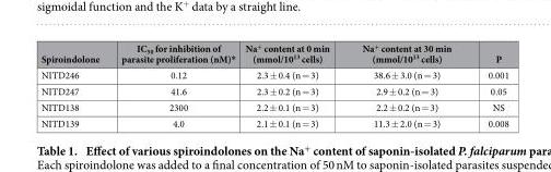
<table><thead><tr><td>Spiroindolone</td><td>IC<sub>50</sub> for inhibition of parasite proliferation (nM)*</td><td>Na<sup>+</sup> content at 0 min (mmol/10<sup>13</sup> cells)</td><td>Na<sup>+</sup> content at 30 min (mmol/10<sup>13</sup> cells)</td><td>P</td></tr></thead><tbody><tr><td>NITD246</td><td>0.12</td><td>2.3 ± 0.4 (n = 3)</td><td>38.6 ± 3.0 (n = 3)</td><td>0.001</td></tr><tr><td>NITD247</td><td>41.6</td><td>2.3 ± 0.2 (n = 3)</td><td>2.9 ± 0.2 (n = 3)</td><td>0.05</td></tr><tr><td>NITD138</td><td>2300</td><td>2.2 ± 0.1 (n = 3)</td><td>2.2 ± 0.2 (n = 3)</td><td>NS</td></tr><tr><td>NITD139</td><td>4.0</td><td>2.1 ± 0.1 (n = 3)</td><td>11.3 ± 2.0 (n = 3)</td><td>0.008</td></tr></tbody></table>